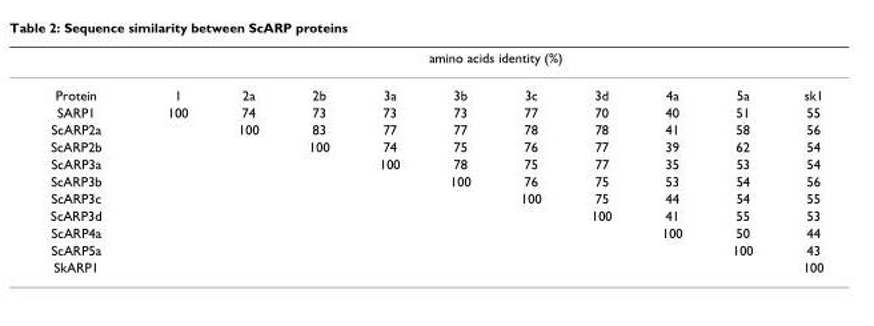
<table><thead><tr><td rowspan="2">Protein</td><td colspan="10">amino acids identity (%)</td></tr><tr><td>1</td><td>2a</td><td>2b</td><td>3a</td><td>3b</td><td>3c</td><td>3d</td><td>4a</td><td>5a</td><td>sk1</td></tr></thead><tbody><tr><td>SARP1</td><td>100</td><td>74</td><td>73</td><td>73</td><td>73</td><td>77</td><td>70</td><td>40</td><td>51</td><td>55</td></tr><tr><td>ScARP2a</td><td></td><td>100</td><td>83</td><td>77</td><td>77</td><td>78</td><td>78</td><td>41</td><td>58</td><td>56</td></tr><tr><td>ScARP2b</td><td></td><td></td><td>100</td><td>74</td><td>75</td><td>76</td><td>77</td><td>39</td><td>62</td><td>54</td></tr><tr><td>ScARP3a</td><td></td><td></td><td></td><td>100</td><td>78</td><td>75</td><td>77</td><td>35</td><td>53</td><td>54</td></tr><tr><td>ScARP3b</td><td></td><td></td><td></td><td></td><td>100</td><td>76</td><td>75</td><td>53</td><td>54</td><td>56</td></tr><tr><td>ScARP3c</td><td></td><td></td><td></td><td></td><td></td><td>100</td><td>75</td><td>44</td><td>54</td><td>55</td></tr><tr><td>ScARP3d</td><td></td><td></td><td></td><td></td><td></td><td></td><td>100</td><td>41</td><td>55</td><td>53</td></tr><tr><td>ScARP4a</td><td></td><td></td><td></td><td></td><td></td><td></td><td></td><td>100</td><td>50</td><td>44</td></tr><tr><td>ScARP5a</td><td></td><td></td><td></td><td></td><td></td><td></td><td></td><td></td><td>100</td><td>43</td></tr><tr><td>SkARP1</td><td></td><td></td><td></td><td></td><td></td><td></td><td></td><td></td><td></td><td>100</td></tr></tbody></table>